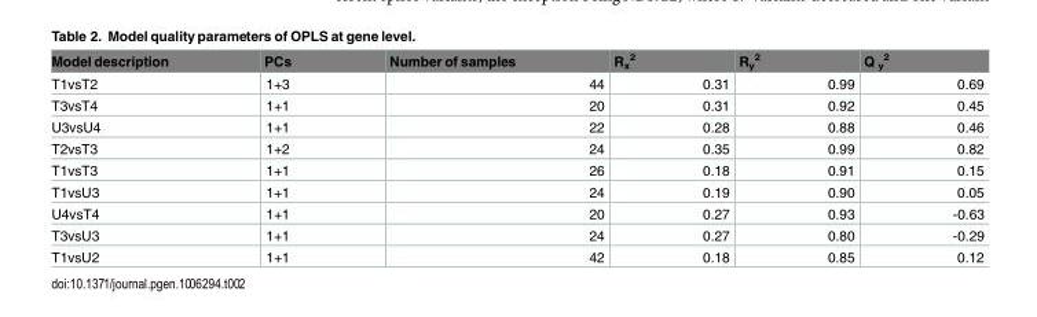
<table><thead><tr><td>Model description</td><td>PCs</td><td>Number of samples</td><td>R<sub>x</sub> <sup>2</sup></td><td>R<sub>y</sub> <sup>2</sup></td><td>Q <sub>y</sub> <sup>2</sup></td></tr></thead><tbody><tr><td>T1vsT2</td><td>1+3</td><td>44</td><td>0.31</td><td>0.99</td><td>0.69</td></tr><tr><td>T3vsT4</td><td>1+1</td><td>20</td><td>0.31</td><td>0.92</td><td>0.45</td></tr><tr><td>U3vsU4</td><td>1+1</td><td>22</td><td>0.28</td><td>0.88</td><td>0.46</td></tr><tr><td>T2vsT3</td><td>1+2</td><td>24</td><td>0.35</td><td>0.99</td><td>0.82</td></tr><tr><td>T1vsT3</td><td>1+1</td><td>26</td><td>0.18</td><td>0.91</td><td>0.15</td></tr><tr><td>T1vsU3</td><td>1+1</td><td>24</td><td>0.19</td><td>0.90</td><td>0.05</td></tr><tr><td>U4vsT4</td><td>1+1</td><td>20</td><td>0.27</td><td>0.93</td><td>-0.63</td></tr><tr><td>T3vsU3</td><td>1+1</td><td>24</td><td>0.27</td><td>0.80</td><td>-0.29</td></tr><tr><td>T1vsU2</td><td>1+1</td><td>42</td><td>0.18</td><td>0.85</td><td>0.12</td></tr></tbody></table>